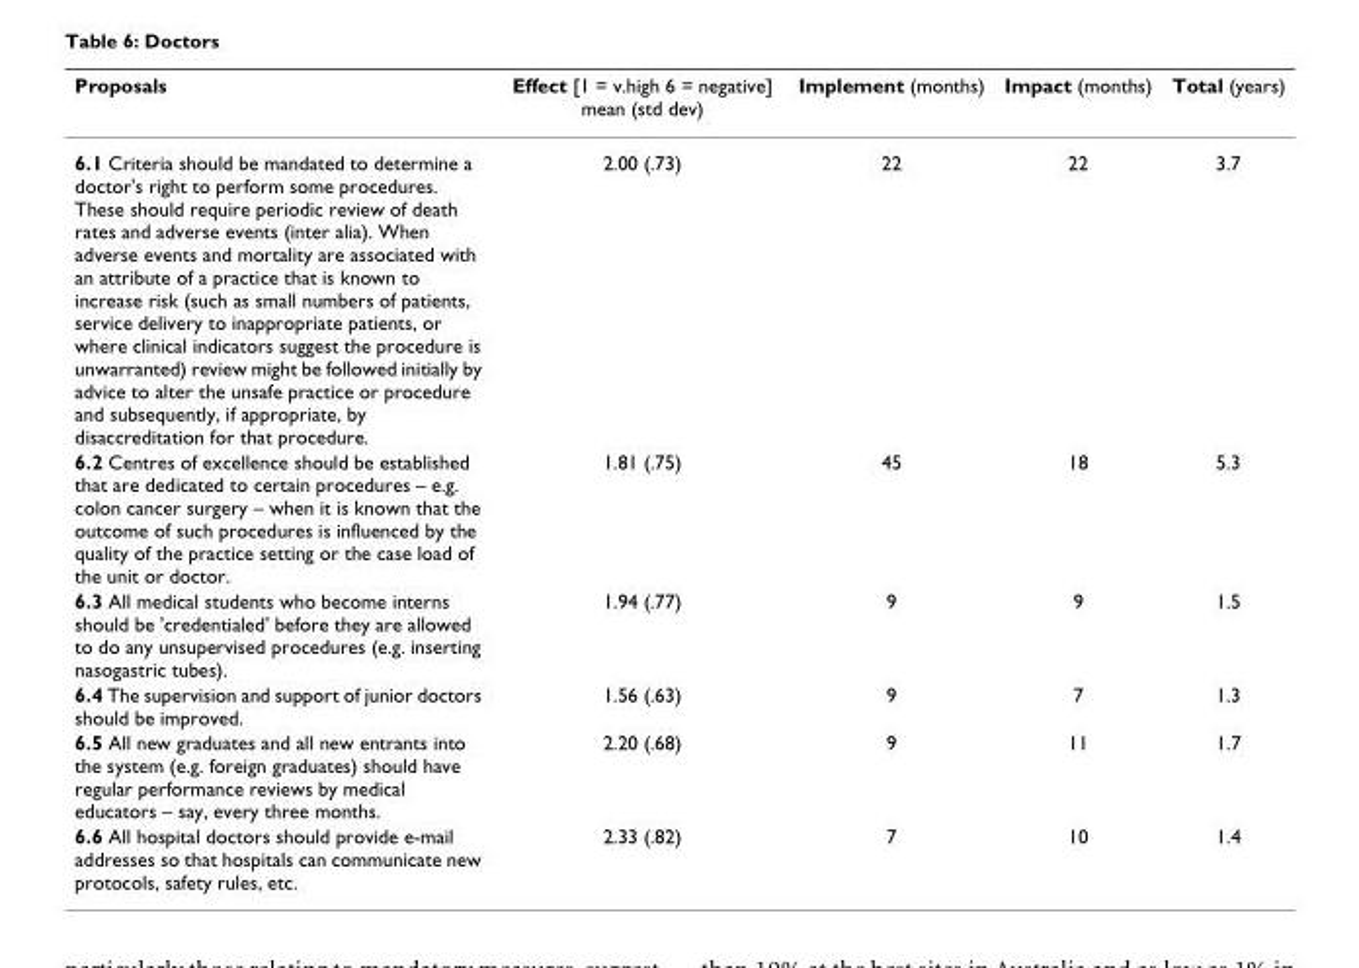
<table><thead><tr><td>Proposals</td><td>Effect [1 = v.high 6 = negative] mean (std dev)</td><td>Implement (months)</td><td>Impact (months)</td><td>Total (years)</td></tr></thead><tbody><tr><td>6.1 Criteria should be mandated to determine a doctor&#x27;s right to perform some procedures. These should require periodic review of death rates and adverse events (inter alia). When adverse events and mortality are associated with an attribute of a practice that is known to increase risk (such as small numbers of patients, service delivery to inappropriate patients, or where clinical indicators suggest the procedure is unwarranted) review might be followed initially by advice to alter the unsafe practice or procedure and subsequently, if appropriate, by disaccreditation for that procedure.</td><td>2.00 (.73)</td><td>22</td><td>22</td><td>3.7</td></tr><tr><td>6.2 Centres of excellence should be established that are dedicated to certain procedures – e.g. colon cancer surgery – when it is known that the outcome of such procedures is influenced by the quality of the practice setting or the case load of the unit or doctor.</td><td>1.81 (.75)</td><td>45</td><td>18</td><td>5.3</td></tr><tr><td>6.3 All medical students who become interns should be &#x27;credentialed&#x27; before they are allowed to do any unsupervised procedures (e.g. inserting nasogastric tubes).</td><td>1.94 (.77)</td><td>9</td><td>9</td><td>1.5</td></tr><tr><td>6.4 The supervision and support of junior doctors should be improved.</td><td>1.56 (.63)</td><td>9</td><td>7</td><td>1.3</td></tr><tr><td>6.5 All new graduates and all new entrants into the system (e.g. foreign graduates) should have regular performance reviews by medical educators – say, every three months.</td><td>2.20 (.68)</td><td>9</td><td>11</td><td>1.7</td></tr><tr><td>6.6 All hospital doctors should provide e-mail addresses so that hospitals can communicate new protocols, safety rules, etc.</td><td>2.33 (.82)</td><td>7</td><td>10</td><td>1.4</td></tr></tbody></table>